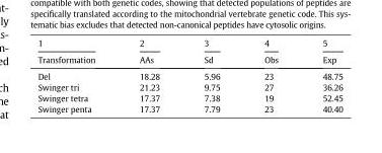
<table><thead><tr><td rowspan="2">1 Transformation</td><td rowspan="2">2 AAs</td><td rowspan="2">3 Sd</td><td rowspan="2">4 Obs</td><td rowspan="2">5 Exp</td></tr><tr></tr></thead><tbody><tr><td>Del</td><td>18.28</td><td>5.96</td><td>23</td><td>48.75</td></tr><tr><td>Swinger tri</td><td>21.23</td><td>9.75</td><td>27</td><td>36.26</td></tr><tr><td>Swinger tetra</td><td>17.37</td><td>7.38</td><td>19</td><td>52.45</td></tr><tr><td>Swinger penta</td><td>17.37</td><td>7.79</td><td>23</td><td>40.40</td></tr></tbody></table>